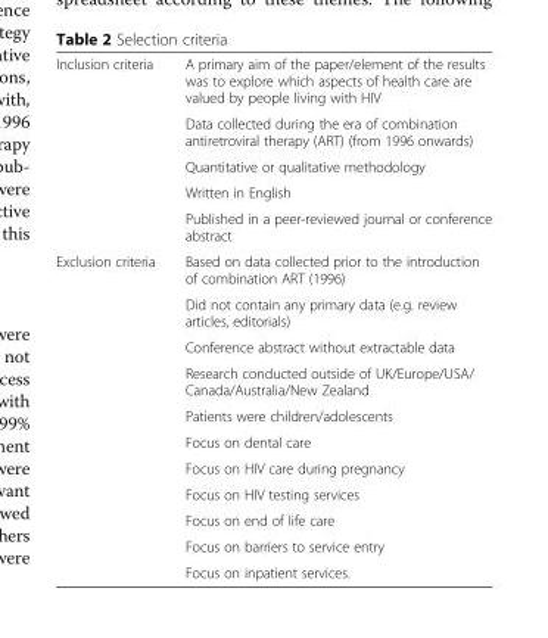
<table><tbody><tr><td rowspan="5">Inclusion criteria</td><td>A primary aim of the paper/element of the results was to explore which aspects of health care are valued by people living with HIV</td></tr><tr><td>Data collected during the era of combination antiretroviral therapy (ART) (from 1996 onwards)</td></tr><tr><td>Quantitative or qualitative methodology</td></tr><tr><td>Written in English</td></tr><tr><td>Published in a peer-reviewed journal or conference abstract</td></tr><tr><td rowspan="11">Exclusion criteria</td><td>Based on data collected prior to the introduction of combination ART (1996)</td></tr><tr><td>Did not contain any primary data (e.g. review articles, editorials)</td></tr><tr><td>Conference abstract without extractable data</td></tr><tr><td>Research conducted outside of UK/Europe/USA/ Canada/Australia/New Zealand</td></tr><tr><td>Patients were children/adolescents</td></tr><tr><td>Focus on dental care</td></tr><tr><td>Focus on HIV care during pregnancy</td></tr><tr><td>Focus on HIV testing services</td></tr><tr><td>Focus on end of life care</td></tr><tr><td>Focus on barriers to service entry</td></tr><tr><td>Focus on inpatient services.</td></tr></tbody></table>